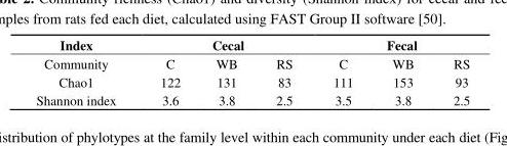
<table><thead><tr><td rowspan="2">Index Community</td><td colspan="3">Cecal</td><td colspan="3">Fecal</td></tr><tr><td>C</td><td>WB</td><td>RS</td><td>C</td><td>WB</td><td>RS</td></tr></thead><tbody><tr><td>Chao1</td><td>122</td><td>131</td><td>83</td><td>111</td><td>153</td><td>93</td></tr><tr><td>Shannon index</td><td>3.6</td><td>3.8</td><td>2.5</td><td>3.5</td><td>3.8</td><td>2.5</td></tr></tbody></table>